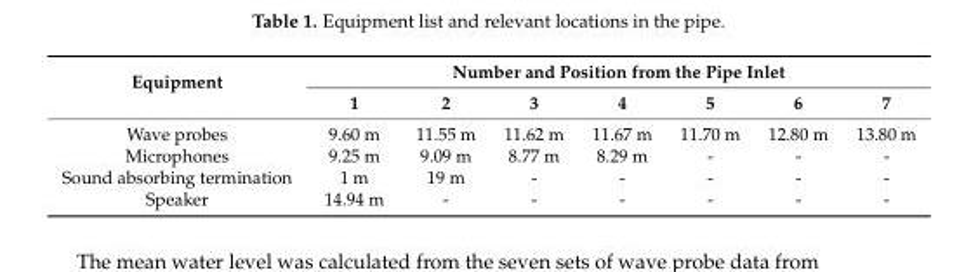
<table><thead><tr><td rowspan="2">Equipment</td><td colspan="7">Number and Position from the Pipe Inlet</td></tr><tr><td>1</td><td>2</td><td>3</td><td>4</td><td>5</td><td>6</td><td>7</td></tr></thead><tbody><tr><td>Wave probes</td><td>9.60 m</td><td>11.55 m</td><td>11.62 m</td><td>11.67 m</td><td>11.70 m</td><td>12.80 m</td><td>13.80 m</td></tr><tr><td>Microphones</td><td>9.25 m</td><td>9.09 m</td><td>8.77 m</td><td>8.29 m</td><td>-</td><td>-</td><td>-</td></tr><tr><td>Sound absorbing termination</td><td>1 m</td><td>19 m</td><td>-</td><td>-</td><td>-</td><td>-</td><td>-</td></tr><tr><td>Speaker</td><td>14.94 m</td><td>-</td><td>-</td><td>-</td><td>-</td><td>-</td><td>-</td></tr></tbody></table>